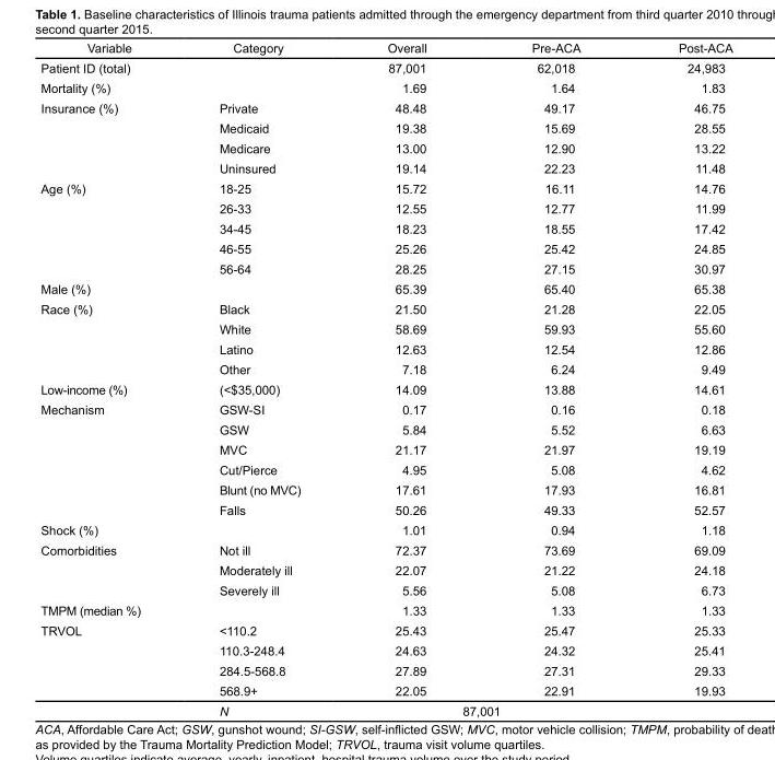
<table><thead><tr><td>Variable</td><td>Category</td><td>Overall</td><td>Pre-ACA</td><td>Post-ACA</td></tr></thead><tbody><tr><td>Patient ID (total)</td><td></td><td>87,001</td><td>62,018</td><td>24,983</td></tr><tr><td>Mortality (%)</td><td></td><td>1.69</td><td>1.64</td><td>1.83</td></tr><tr><td rowspan="4">Insurance (%)</td><td>Private</td><td>48.48</td><td>49.17</td><td>46.75</td></tr><tr><td>Medicaid</td><td>19.38</td><td>15.69</td><td>28.55</td></tr><tr><td>Medicare</td><td>13.00</td><td>12.90</td><td>13.22</td></tr><tr><td>Uninsured</td><td>19.14</td><td>22.23</td><td>11.48</td></tr><tr><td rowspan="5">Age (%)</td><td>18-25</td><td>15.72</td><td>16.11</td><td>14.76</td></tr><tr><td>26-33</td><td>12.55</td><td>12.77</td><td>11.99</td></tr><tr><td>34-45</td><td>18.23</td><td>18.55</td><td>17.42</td></tr><tr><td>46-55</td><td>25.26</td><td>25.42</td><td>24.85</td></tr><tr><td>56-64</td><td>28.25</td><td>27.15</td><td>30.97</td></tr><tr><td>Male (%)</td><td></td><td>65.39</td><td>65.40</td><td>65.38</td></tr><tr><td rowspan="4">Race (%)</td><td>Black</td><td>21.50</td><td>21.28</td><td>22.05</td></tr><tr><td>White</td><td>58.69</td><td>59.93</td><td>55.60</td></tr><tr><td>Latino</td><td>12.63</td><td>12.54</td><td>12.86</td></tr><tr><td>Other</td><td>7.18</td><td>6.24</td><td>9.49</td></tr><tr><td>Low-income (%)</td><td>(&lt;$35,000)</td><td>14.09</td><td>13.88</td><td>14.61</td></tr><tr><td rowspan="6">Mechanism</td><td>GSW-SI</td><td>0.17</td><td>0.16</td><td>0.18</td></tr><tr><td>GSW</td><td>5.84</td><td>5.52</td><td>6.63</td></tr><tr><td>MVC</td><td>21.17</td><td>21.97</td><td>19.19</td></tr><tr><td>Cut/Pierce</td><td>4.95</td><td>5.08</td><td>4.62</td></tr><tr><td>Blunt (no MVC)</td><td>17.61</td><td>17.93</td><td>16.81</td></tr><tr><td>Falls</td><td>50.26</td><td>49.33</td><td>52.57</td></tr><tr><td>Shock (%)</td><td></td><td>1.01</td><td>0.94</td><td>1.18</td></tr><tr><td rowspan="3">Comorbidities</td><td>Not ill</td><td>72.37</td><td>73.69</td><td>69.09</td></tr><tr><td>Moderately ill</td><td>22.07</td><td>21.22</td><td>24.18</td></tr><tr><td>Severely ill</td><td>5.56</td><td>5.08</td><td>6.73</td></tr><tr><td>TMPM (median %)</td><td></td><td>1.33</td><td>1.33</td><td>1.33</td></tr><tr><td rowspan="5">TRVOL</td><td>&lt;110.2</td><td>25.43</td><td>25.47</td><td>25.33</td></tr><tr><td>110.3-248.4</td><td>24.63</td><td>24.32</td><td>25.41</td></tr><tr><td>284.5-568.8</td><td>27.89</td><td>27.31</td><td>29.33</td></tr><tr><td>568.9+</td><td>22.05</td><td>22.91</td><td>19.93</td></tr><tr><td>N</td><td colspan="2">87,001</td><td></td></tr></tbody></table>